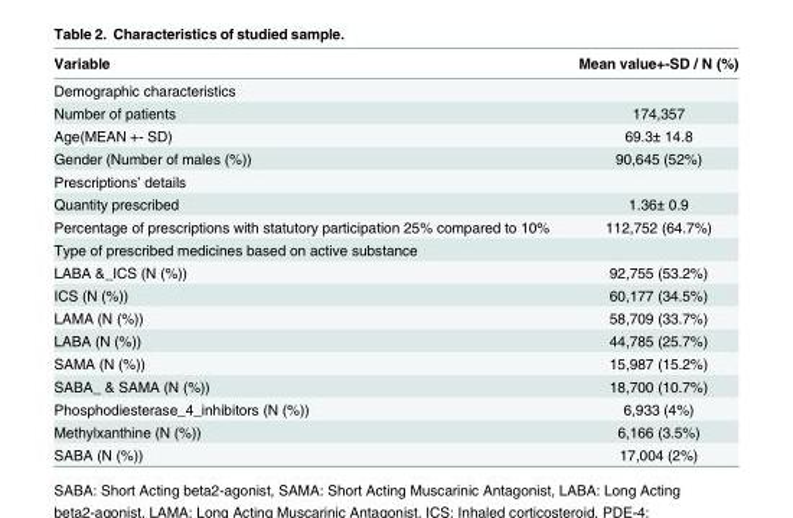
<table><thead><tr><td>Variable</td><td>Mean value+-SD / N (%)</td></tr></thead><tbody><tr><td colspan="2">Demographic characteristics</td></tr><tr><td>Number of patients</td><td>174,357</td></tr><tr><td>Age(MEAN +- SD)</td><td>69.3± 14.8</td></tr><tr><td>Gender (Number of males (%))</td><td>90,645 (52%)</td></tr><tr><td colspan="2">Prescriptions’ details</td></tr><tr><td>Quantity prescribed</td><td>1.36± 0.9</td></tr><tr><td>Percentage of prescriptions with statutory participation 25% compared to 10%</td><td>112,752 (64.7%)</td></tr><tr><td colspan="2">Type of prescribed medicines based on active substance</td></tr><tr><td>LABA &amp;_ICS (N (%))</td><td>92,755 (53.2%)</td></tr><tr><td>ICS (N (%))</td><td>60,177 (34.5%)</td></tr><tr><td>LAMA (N (%))</td><td>58,709 (33.7%)</td></tr><tr><td>LABA (N (%))</td><td>44,785 (25.7%)</td></tr><tr><td>SAMA (N (%))</td><td>15,987 (15.2%)</td></tr><tr><td>SABA_ &amp; SAMA (N (%))</td><td>18,700 (10.7%)</td></tr><tr><td>Phosphodiesterase_4_inhibitors (N (%))</td><td>6,933 (4%)</td></tr><tr><td>Methylxanthine (N (%))</td><td>6,166 (3.5%)</td></tr><tr><td>SABA (N (%))</td><td>17,004 (2%)</td></tr></tbody></table>